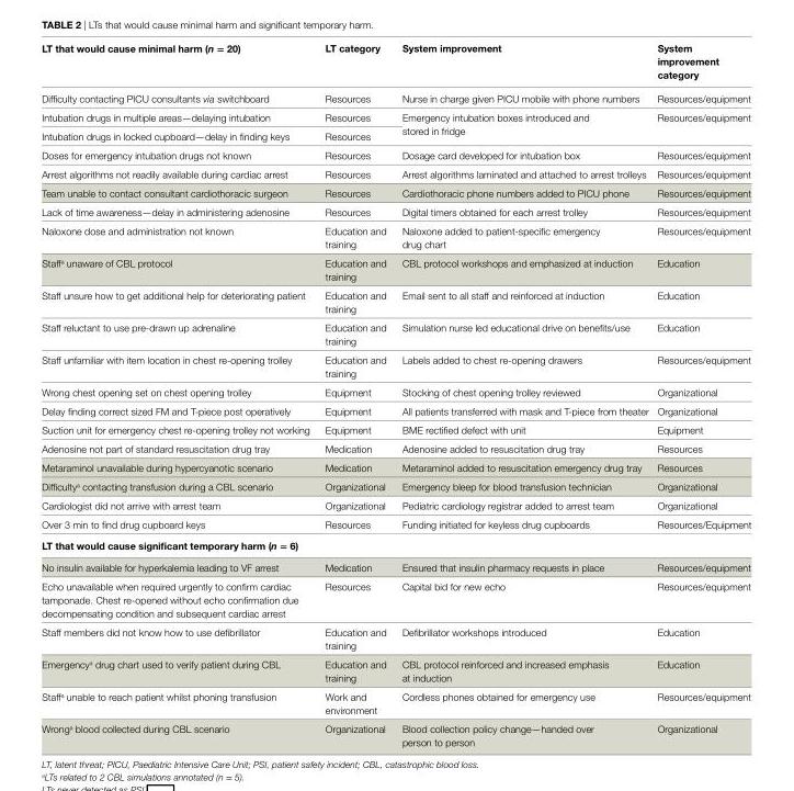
<table><thead><tr><td>lT that would cause minimal harm (n = 20)</td><td>lT category</td><td>system improvement</td><td>system improvement category</td></tr></thead><tbody><tr><td>Difficulty contacting PICU consultants via switchboard</td><td>Resources</td><td>Nurse in charge given PICU mobile with phone numbers</td><td>Resources/equipment</td></tr><tr><td>Intubation drugs in multiple areas—delaying intubation</td><td>Resources</td><td rowspan="2">Emergency intubation boxes introduced and stored in fridge</td><td rowspan="2">Resources/equipment</td></tr><tr><td>Intubation drugs in locked cupboard—delay in finding keys</td><td>Resources</td></tr><tr><td>Doses for emergency intubation drugs not known</td><td>Resources</td><td>Dosage card developed for intubation box</td><td>Resources/equipment</td></tr><tr><td>Arrest algorithms not readily available during cardiac arrest</td><td>Resources</td><td>Arrest algorithms laminated and attached to arrest trolleys</td><td>Resources/equipment</td></tr><tr><td>Team unable to contact consultant cardiothoracic surgeon</td><td>Resources</td><td>Cardiothoracic phone numbers added to PICU phone</td><td>Resources/equipment</td></tr><tr><td>Lack of time awareness—delay in administering adenosine</td><td>Resources</td><td>Digital timers obtained for each arrest trolley</td><td>Resources/equipment</td></tr><tr><td>Naloxone dose and administration not known</td><td>Education and training</td><td>Naloxone added to patient-specific emergency drug chart</td><td>Resources/equipment</td></tr><tr><td>Staff<sup>a</sup> unaware of CBL protocol</td><td>Education and training</td><td>CBL protocol workshops and emphasized at induction</td><td>Education</td></tr><tr><td>Staff unsure how to get additional help for deteriorating patient</td><td>Education and training</td><td>Email sent to all staff and reinforced at induction</td><td>Education</td></tr><tr><td>Staff reluctant to use pre-drawn up adrenaline</td><td>Education and training</td><td>Simulation nurse led educational drive on benefits/use</td><td>Education</td></tr><tr><td>Staff unfamiliar with item location in chest re-opening trolley</td><td>Education and training</td><td>Labels added to chest re-opening drawers</td><td>Resources/equipment</td></tr><tr><td>Wrong chest opening set on chest opening trolley</td><td>Equipment</td><td>Stocking of chest opening trolley reviewed</td><td>Organizational</td></tr><tr><td>Delay finding correct sized FM and T-piece post operatively</td><td>Equipment</td><td>All patients transferred with mask and T-piece from theater</td><td>Organizational</td></tr><tr><td>Suction unit for emergency chest re-opening trolley not working</td><td>Equipment</td><td>BME rectified defect with unit</td><td>Equipment</td></tr><tr><td>Adenosine not part of standard resuscitation drug tray</td><td>Medication</td><td>Adenosine added to resuscitation drug tray</td><td>Resources</td></tr><tr><td>Metaraminol unavailable during hypercyanotic scenario</td><td>Medication</td><td>Metaraminol added to resuscitation emergency drug tray</td><td>Resources</td></tr><tr><td>Difficulty<sup>a</sup> contacting transfusion during a CBL scenario</td><td>Organizational</td><td>Emergency bleep for blood transfusion technician</td><td>Organizational</td></tr><tr><td>Cardiologist did not arrive with arrest team</td><td>Organizational</td><td>Pediatric cardiology registrar added to arrest team</td><td>Organizational</td></tr><tr><td>Over 3 min to find drug cupboard keys</td><td>Resources</td><td>Funding initiated for keyless drug cupboards</td><td>Resources/Equipment</td></tr><tr><td colspan="4">lT that would cause significant temporary harm (n = 6)</td></tr><tr><td>No insulin available for hyperkalemia leading to VF arrest</td><td>Medication</td><td>Ensured that insulin pharmacy requests in place</td><td>Resources/equipment</td></tr><tr><td>Echo unavailable when required urgently to confirm cardiac tamponade. Chest re-opened without echo confirmation due decompensating condition and subsequent cardiac arrest</td><td>Resources</td><td>Capital bid for new echo</td><td>Resources/equipment</td></tr><tr><td>Staff members did not know how to use defibrillator</td><td>Education and training</td><td>Defibrillator workshops introduced</td><td>Education</td></tr><tr><td>Emergency<sup>a</sup> drug chart used to verify patient during CBL</td><td>Education and training</td><td>CBL protocol reinforced and increased emphasis at induction</td><td>Education</td></tr><tr><td>Staff<sup>a</sup> unable to reach patient whilst phoning transfusion</td><td>Work and environment</td><td>Cordless phones obtained for emergency use</td><td>Resources/equipment</td></tr><tr><td>Wrong<sup>a</sup> blood collected during CBL scenario</td><td>Organizational</td><td>Blood collection policy change—handed over person to person</td><td>Organizational</td></tr></tbody></table>